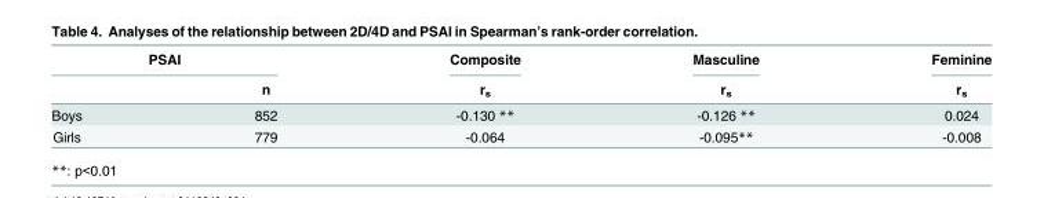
<table><thead><tr><td colspan="2">PSAI</td><td rowspan="2">Composite r<sub>s</sub></td><td rowspan="2">Masculine r<sub>s</sub></td><td rowspan="2">Feminine r<sub>s</sub></td></tr><tr><td></td><td>n</td></tr></thead><tbody><tr><td>Boys</td><td>852</td><td>-0.130 **</td><td>-0.126 **</td><td>0.024</td></tr><tr><td>Girls</td><td>779</td><td>-0.064</td><td>-0.095**</td><td>-0.008</td></tr></tbody></table>